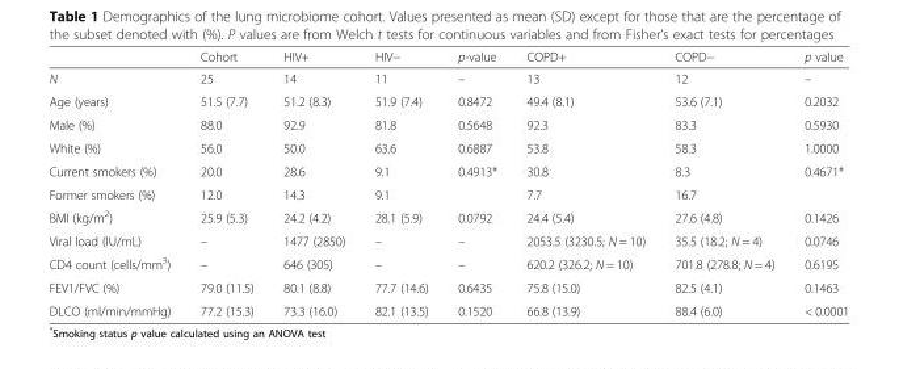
<table><thead><tr><td></td><td>Cohort</td><td>HIV+</td><td>HIV−</td><td>p-value</td><td>COPD+</td><td>COPD−</td><td>p value</td></tr></thead><tbody><tr><td>N</td><td>25</td><td>14</td><td>11</td><td>–</td><td>13</td><td>12</td><td>–</td></tr><tr><td>Age (years)</td><td>51.5 (7.7)</td><td>51.2 (8.3)</td><td>51.9 (7.4)</td><td>0.8472</td><td>49.4 (8.1)</td><td>53.6 (7.1)</td><td>0.2032</td></tr><tr><td>Male (%)</td><td>88.0</td><td>92.9</td><td>81.8</td><td>0.5648</td><td>92.3</td><td>83.3</td><td>0.5930</td></tr><tr><td>White (%)</td><td>56.0</td><td>50.0</td><td>63.6</td><td>0.6887</td><td>53.8</td><td>58.3</td><td>1.0000</td></tr><tr><td>Current smokers (%)</td><td>20.0</td><td>28.6</td><td>9.1</td><td>0.4913*</td><td>30.8</td><td>8.3</td><td>0.4671*</td></tr><tr><td>Former smokers (%)</td><td>12.0</td><td>14.3</td><td>9.1</td><td></td><td>7.7</td><td>16.7</td><td></td></tr><tr><td>BMI (kg/m<sup>2</sup>)</td><td>25.9 (5.3)</td><td>24.2 (4.2)</td><td>28.1 (5.9)</td><td>0.0792</td><td>24.4 (5.4)</td><td>27.6 (4.8)</td><td>0.1426</td></tr><tr><td>Viral load (IU/mL)</td><td>–</td><td>1477 (2850)</td><td>–</td><td>–</td><td>2053.5 (3230.5; N = 10)</td><td>35.5 (18.2; N = 4)</td><td>0.0746</td></tr><tr><td>CD4 count (cells/mm<sup>3</sup>)</td><td>–</td><td>646 (305)</td><td>–</td><td>–</td><td>620.2 (326.2; N = 10)</td><td>701.8 (278.8; N = 4)</td><td>0.6195</td></tr><tr><td>FEV1/FVC (%)</td><td>79.0 (11.5)</td><td>80.1 (8.8)</td><td>77.7 (14.6)</td><td>0.6435</td><td>75.8 (15.0)</td><td>82.5 (4.1)</td><td>0.1463</td></tr><tr><td>DLCO (ml/min/mmHg)</td><td>77.2 (15.3)</td><td>73.3 (16.0)</td><td>82.1 (13.5)</td><td>0.1520</td><td>66.8 (13.9)</td><td>88.4 (6.0)</td><td>&lt; 0.0001</td></tr></tbody></table>